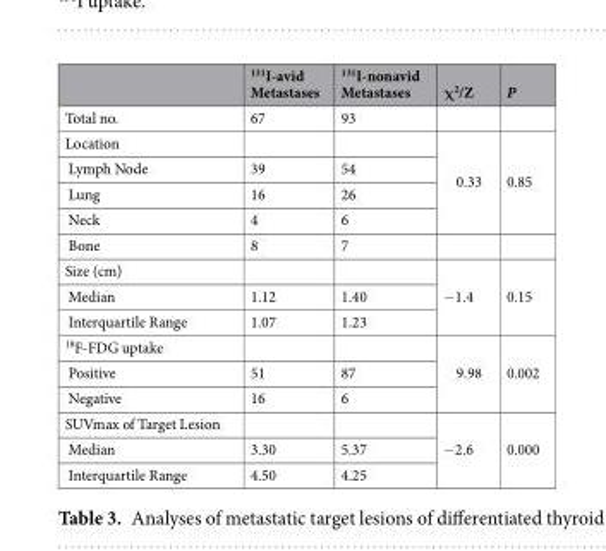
<table><thead><tr><td></td><td><sup>131</sup>I-avid Metastases</td><td><sup>131</sup>I-nonavid Metastases</td><td>χ<sup>2</sup>/Z</td><td>P</td></tr></thead><tbody><tr><td>Total no.</td><td>67</td><td>93</td><td></td><td></td></tr><tr><td colspan="3">Location</td><td rowspan="4">0.33</td><td rowspan="4">0.85</td></tr><tr><td>Lymph Node</td><td>39</td><td>54</td></tr><tr><td>Lung</td><td>16</td><td>26</td></tr><tr><td>Neck</td><td>4</td><td>6</td></tr><tr><td>Bone</td><td>8</td><td>7</td><td></td><td></td></tr><tr><td colspan="3">Size (cm)</td><td rowspan="3">−1.4</td><td rowspan="3">0.15</td></tr><tr><td>Median</td><td>1.12</td><td>1.40</td></tr><tr><td>Interquartile Range</td><td>1.07</td><td>1.23</td></tr><tr><td colspan="3"><sup>18</sup>F-FDG uptake</td><td rowspan="3">9.98</td><td rowspan="3">0.002</td></tr><tr><td>Positive</td><td>51</td><td>87</td></tr><tr><td>Negative</td><td>16</td><td>6</td></tr><tr><td colspan="3">SUVmax of Target Lesion</td><td rowspan="3">−2.6</td><td rowspan="3">0.000</td></tr><tr><td>Median</td><td>3.30</td><td>5.37</td></tr><tr><td>Interquartile Range</td><td>4.50</td><td>4.25</td></tr></tbody></table>